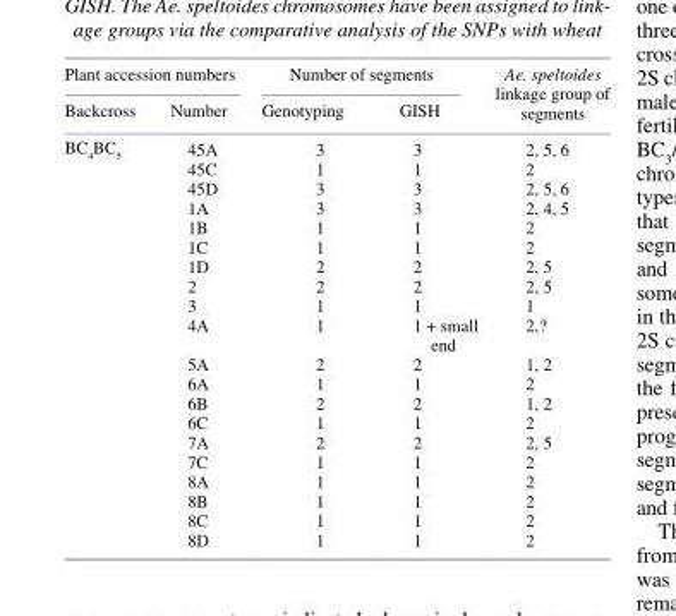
<table><thead><tr><td colspan="2">Plant accession numbers</td><td colspan="2">Number of segments</td><td rowspan="2">Ae. speltoides linkage group of segments</td></tr><tr><td>Backcross</td><td>Number</td><td>Genotyping</td><td>GISH</td></tr></thead><tbody><tr><td rowspan="20">BC<sub>4</sub>BC<sub>5</sub></td><td>45A</td><td>3</td><td>3</td><td>2, 5, 6</td></tr><tr><td>45C</td><td>1</td><td>1</td><td>2</td></tr><tr><td>45D</td><td>3</td><td>3</td><td>2, 5, 6</td></tr><tr><td>1A</td><td>3</td><td>3</td><td>2, 4, 5</td></tr><tr><td>1B</td><td>1</td><td>1</td><td>2</td></tr><tr><td>1C</td><td>1</td><td>1</td><td>2</td></tr><tr><td>1D</td><td>2</td><td>2</td><td>2, 5</td></tr><tr><td>2</td><td>2</td><td>2</td><td>2, 5</td></tr><tr><td>3</td><td>1</td><td>1</td><td>1</td></tr><tr><td>4A</td><td>1</td><td>1 + small end</td><td>2,?</td></tr><tr><td>5A</td><td>2</td><td>2</td><td>1, 2</td></tr><tr><td>6A</td><td>1</td><td>1</td><td>2</td></tr><tr><td>6B</td><td>2</td><td>2</td><td>1, 2</td></tr><tr><td>6C</td><td>1</td><td>1</td><td>2</td></tr><tr><td>7A</td><td>2</td><td>2</td><td>2, 5</td></tr><tr><td>7C</td><td>1</td><td>1</td><td>2</td></tr><tr><td>8A</td><td>1</td><td>1</td><td>2</td></tr><tr><td>8B</td><td>1</td><td>1</td><td>2</td></tr><tr><td>8C</td><td>1</td><td>1</td><td>2</td></tr><tr><td>8D</td><td>1</td><td>1</td><td>2</td></tr></tbody></table>